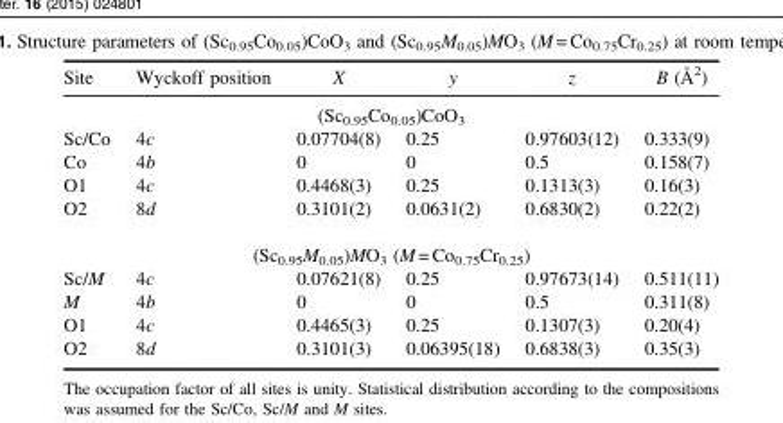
<table><thead><tr><td>Site</td><td>Wyckoff position</td><td>X</td><td>y</td><td>z</td><td>B (Å<sup>2</sup>)</td></tr></thead><tbody><tr><td colspan="6">(Sc<sub>0.95</sub>Co<sub>0.05</sub>)CoO<sub>3</sub></td></tr><tr><td>Sc/Co</td><td>4c</td><td>0.07704(8)</td><td>0.25</td><td>0.97603(12)</td><td>0.333(9)</td></tr><tr><td>Co</td><td>4b</td><td>0</td><td>0</td><td>0.5</td><td>0.158(7)</td></tr><tr><td>O1</td><td>4c</td><td>0.4468(3)</td><td>0.25</td><td>0.1313(3)</td><td>0.16(3)</td></tr><tr><td>O2</td><td>8d</td><td>0.3101(2)</td><td>0.0631(2)</td><td>0.6830(2)</td><td>0.22(2)</td></tr><tr><td colspan="6">(Sc<sub>0.95</sub>M<sub>0.05</sub>)MO<sub>3</sub> (M = Co<sub>0.75</sub>Cr<sub>0.25</sub>)</td></tr><tr><td>Sc/M</td><td>4c</td><td>0.07621(8)</td><td>0.25</td><td>0.97673(14)</td><td>0.511(11)</td></tr><tr><td>M</td><td>4b</td><td>0</td><td>0</td><td>0.5</td><td>0.311(8)</td></tr><tr><td>O1</td><td>4c</td><td>0.4465(3)</td><td>0.25</td><td>0.1307(3)</td><td>0.20(4)</td></tr><tr><td>O2</td><td>8d</td><td>0.3101(3)</td><td>0.06395(18)</td><td>0.6838(3)</td><td>0.35(3)</td></tr></tbody></table>